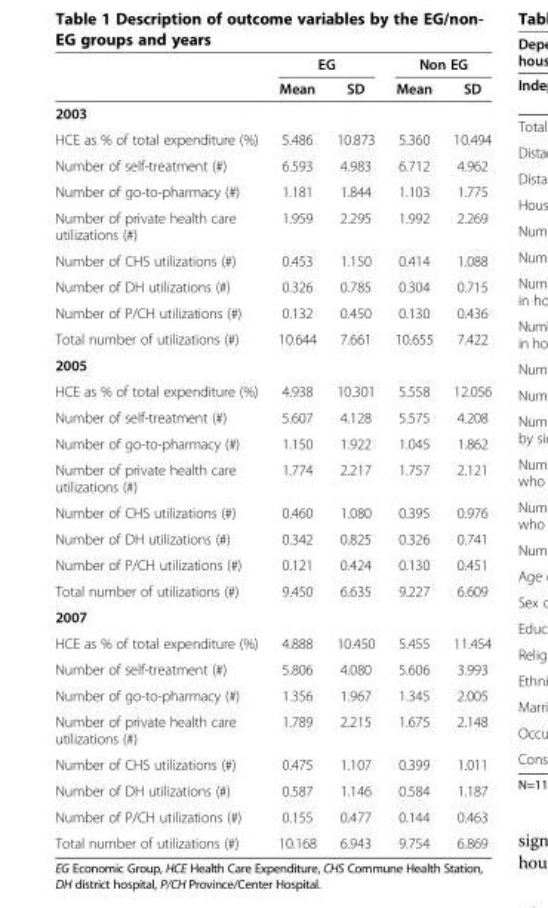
<table><thead><tr><td rowspan="2"></td><td colspan="2">EG</td><td colspan="2">Non EG</td></tr><tr><td>Mean</td><td>SD</td><td>Mean</td><td>SD</td></tr></thead><tbody><tr><td colspan="5">2003</td></tr><tr><td>HCE as % of total expenditure (%)</td><td>5.486</td><td>10.873</td><td>5.360</td><td>10.494</td></tr><tr><td>Number of self-treatment (#)</td><td>6.593</td><td>4.983</td><td>6.712</td><td>4.962</td></tr><tr><td>Number of go-to-pharmacy (#)</td><td>1.181</td><td>1.844</td><td>1.103</td><td>1.775</td></tr><tr><td>Number of private health care utilizations (#)</td><td>1.959</td><td>2.295</td><td>1.992</td><td>2.269</td></tr><tr><td>Number of CHS utilizations (#)</td><td>0.453</td><td>1.150</td><td>0.414</td><td>1.088</td></tr><tr><td>Number of DH utilizations (#)</td><td>0.326</td><td>0.785</td><td>0.304</td><td>0.715</td></tr><tr><td>Number of P/CH utilizations (#)</td><td>0.132</td><td>0.450</td><td>0.130</td><td>0.436</td></tr><tr><td>Total number of utilizations (#)</td><td>10.644</td><td>7.661</td><td>10.655</td><td>7.422</td></tr><tr><td colspan="5">2005</td></tr><tr><td>HCE as % of total expenditure (%)</td><td>4.938</td><td>10.301</td><td>5.558</td><td>12.056</td></tr><tr><td>Number of self-treatment (#)</td><td>5.607</td><td>4.128</td><td>5.575</td><td>4.208</td></tr><tr><td>Number of go-to-pharmacy (#)</td><td>1.150</td><td>1.922</td><td>1.045</td><td>1.862</td></tr><tr><td>Number of private health care utilizations (#)</td><td>1.774</td><td>2.217</td><td>1.757</td><td>2.121</td></tr><tr><td>Number of CHS utilizations (#)</td><td>0.460</td><td>1.080</td><td>0.395</td><td>0.976</td></tr><tr><td>Number of DH utilizations (#)</td><td>0.342</td><td>0.825</td><td>0.326</td><td>0.741</td></tr><tr><td>Number of P/CH utilizations (#)</td><td>0.121</td><td>0.424</td><td>0.130</td><td>0.451</td></tr><tr><td>Total number of utilizations (#)</td><td>9.450</td><td>6.635</td><td>9.227</td><td>6.609</td></tr><tr><td colspan="5">2007</td></tr><tr><td>HCE as % of total expenditure (%)</td><td>4.888</td><td>10.450</td><td>5.455</td><td>11.454</td></tr><tr><td>Number of self-treatment (#)</td><td>5.806</td><td>4.080</td><td>5.606</td><td>3.993</td></tr><tr><td>Number of go-to-pharmacy (#)</td><td>1.356</td><td>1.967</td><td>1.345</td><td>2.005</td></tr><tr><td>Number of private health care utilizations (#)</td><td>1.789</td><td>2.215</td><td>1.675</td><td>2.148</td></tr><tr><td>Number of CHS utilizations (#)</td><td>0.475</td><td>1.107</td><td>0.399</td><td>1.011</td></tr><tr><td>Number of DH utilizations (#)</td><td>0.587</td><td>1.146</td><td>0.584</td><td>1.187</td></tr><tr><td>Number of P/CH utilizations (#)</td><td>0.155</td><td>0.477</td><td>0.144</td><td>0.463</td></tr><tr><td>Total number of utilizations (#)</td><td>10.168</td><td>6.943</td><td>9.754</td><td>6.869</td></tr></tbody></table>